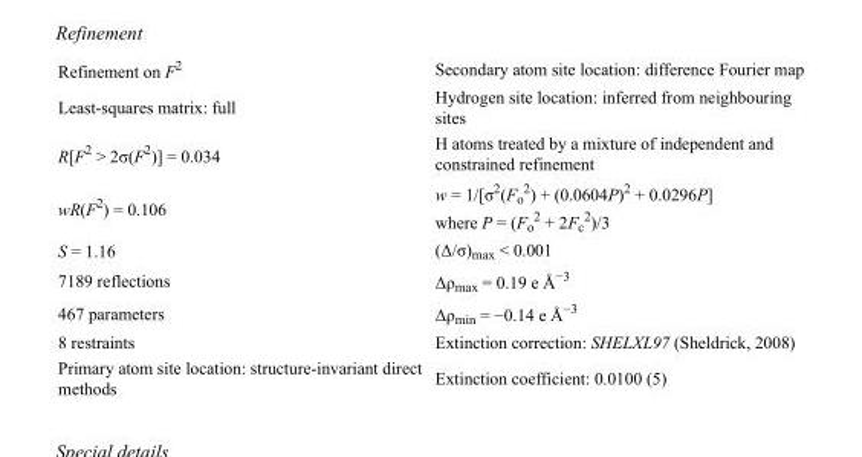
<table><tbody><tr><td>Refinement on F<sup>2</sup></td><td>Secondary atom site location: difference Fourier map</td></tr><tr><td>Least-squares matrix: full</td><td>Hydrogen site location: inferred from neighbouring sites</td></tr><tr><td>R[F<sup>2</sup> &gt; 2σ(F<sup>2</sup>)] = 0.034</td><td>H atoms treated by a mixture of independent and constrained refinement</td></tr><tr><td>wR(F<sup>2</sup>) = 0.106</td><td>w = 1/[σ<sup>2</sup>(F<sub>o</sub> <sup>2</sup>) + (0.0604P)<sup>2</sup> + 0.0296P] where P = (F<sub>o</sub> <sup>2</sup> + 2F<sub>c</sub> <sup>2</sup>)/3</td></tr><tr><td>S = 1.16</td><td>(Δ/σ)<sub>max</sub> &lt; 0.001</td></tr><tr><td>7189 reflections</td><td>Δρ<sub>max</sub> = 0.19 e Å<sup>−3</sup></td></tr><tr><td>467 parameters</td><td>Δρ<sub>min</sub> = −0.14 e Å<sup>−3</sup></td></tr><tr><td>8 restraints</td><td>Extinction correction: SHELXL97 (Sheldrick, 2008)</td></tr><tr><td>Primary atom site location: structure-invariant direct methods</td><td>Extinction coefficient: 0.0100 (5)</td></tr></tbody></table>